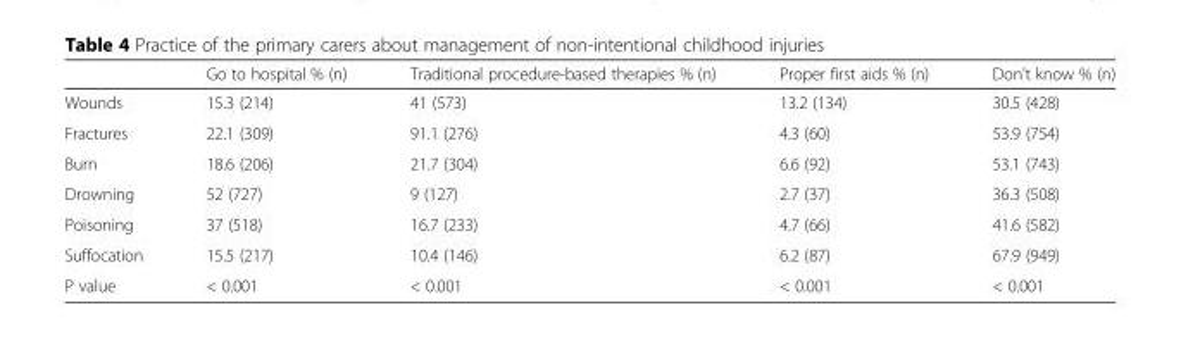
<table><thead><tr><td></td><td>Go to hospital % (n)</td><td>Traditional procedure-based therapies % (n)</td><td>Proper first aids % (n)</td><td>Don&#x27;t know % (n)</td></tr></thead><tbody><tr><td>Wounds</td><td>15.3 (214)</td><td>41 (573)</td><td>13.2 (134)</td><td>30.5 (428)</td></tr><tr><td>Fractures</td><td>22.1 (309)</td><td>91.1 (276)</td><td>4.3 (60)</td><td>53.9 (754)</td></tr><tr><td>Burn</td><td>18.6 (206)</td><td>21.7 (304)</td><td>6.6 (92)</td><td>53.1 (743)</td></tr><tr><td>Drowning</td><td>52 (727)</td><td>9 (127)</td><td>2.7 (37)</td><td>36.3 (508)</td></tr><tr><td>Poisoning</td><td>37 (518)</td><td>16.7 (233)</td><td>4.7 (66)</td><td>41.6 (582)</td></tr><tr><td>Suffocation</td><td>15.5 (217)</td><td>10.4 (146)</td><td>6.2 (87)</td><td>67.9 (949)</td></tr><tr><td>P value</td><td>&lt; 0.001</td><td>&lt; 0.001</td><td>&lt; 0.001</td><td>&lt; 0.001</td></tr></tbody></table>